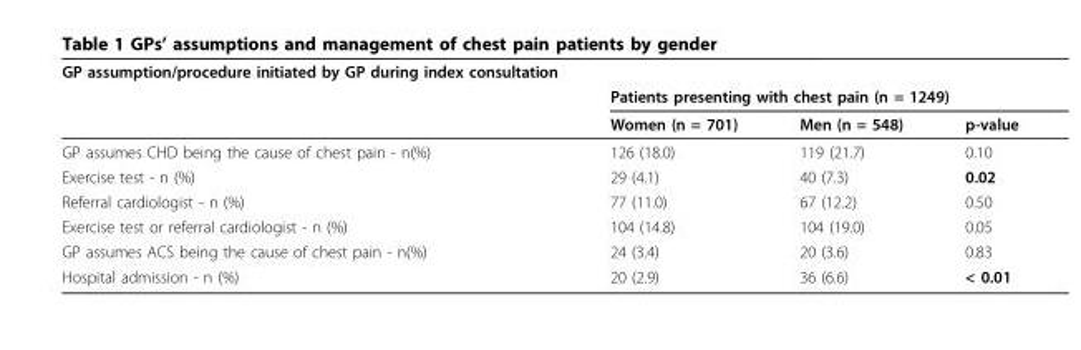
<table><thead><tr><td rowspan="3">GP assumption/procedure initiated by GP during index consultation</td><td></td><td></td><td></td></tr><tr><td colspan="3">Patients presenting with chest pain (n = 1249)</td></tr><tr><td>Women (n = 701)</td><td>Men (n = 548)</td><td>p-value</td></tr></thead><tbody><tr><td>GP assumes CHD being the cause of chest pain - n(%)</td><td>126 (18.0)</td><td>119 (21.7)</td><td>0.10</td></tr><tr><td>Exercise test - n (%)</td><td>29 (4.1)</td><td>40 (7.3)</td><td>0.02</td></tr><tr><td>Referral cardiologist - n (%)</td><td>77 (11.0)</td><td>67 (12.2)</td><td>0.50</td></tr><tr><td>Exercise test or referral cardiologist - n (%)</td><td>104 (14.8)</td><td>104 (19.0)</td><td>0.05</td></tr><tr><td>GP assumes ACS being the cause of chest pain - n(%)</td><td>24 (3.4)</td><td>20 (3.6)</td><td>0.83</td></tr><tr><td>Hospital admission - n (%)</td><td>20 (2.9)</td><td>36 (6.6)</td><td>&lt; 0.01</td></tr></tbody></table>